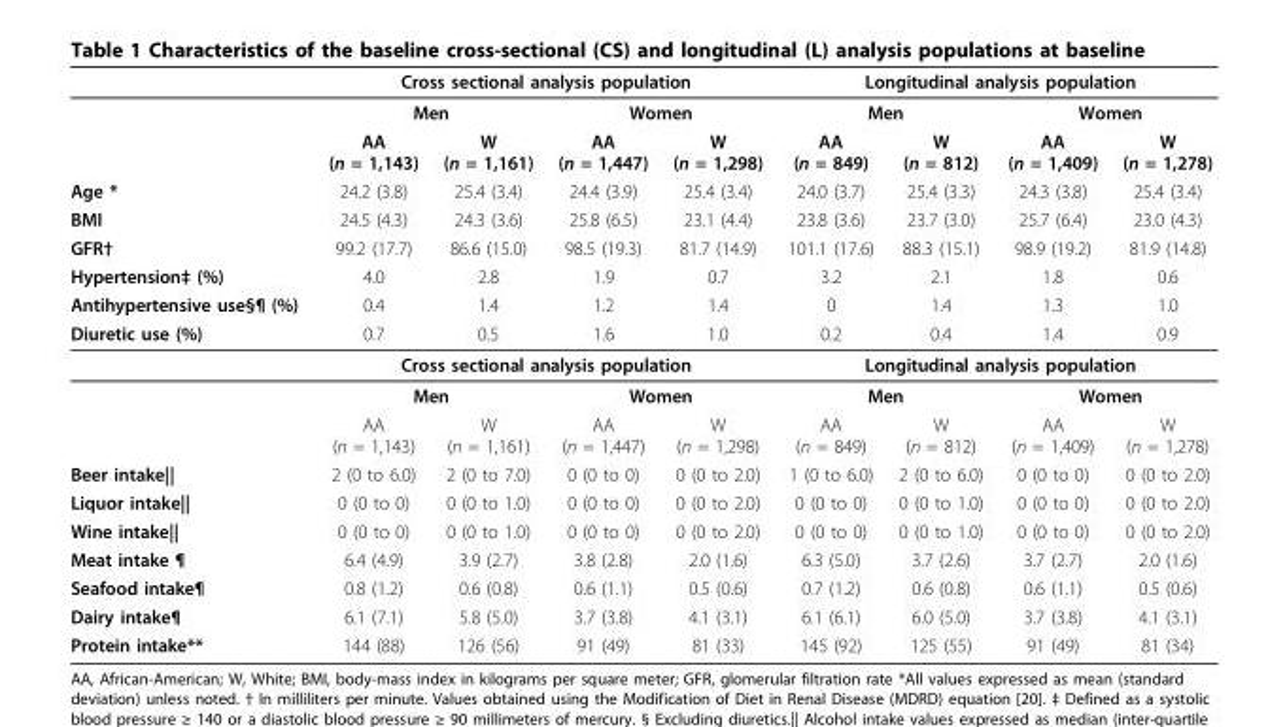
<table><thead><tr><td rowspan="3"></td><td colspan="4">Cross sectional analysis population</td><td colspan="4">Longitudinal analysis population</td></tr><tr><td colspan="2">Men</td><td colspan="2">Women</td><td colspan="2">Men</td><td colspan="2">Women</td></tr><tr><td>AA (n = 1,143)</td><td>W (n = 1,161)</td><td>AA (n = 1,447)</td><td>W (n = 1,298)</td><td>AA (n = 849)</td><td>W (n = 812)</td><td>AA (n = 1,409)</td><td>W (n = 1,278)</td></tr></thead><tbody><tr><td>Age *</td><td>24.2 (3.8)</td><td>25.4 (3.4)</td><td>24.4 (3.9)</td><td>25.4 (3.4)</td><td>24.0 (3.7)</td><td>25.4 (3.3)</td><td>24.3 (3.8)</td><td>25.4 (3.4)</td></tr><tr><td>BMI</td><td>24.5 (4.3)</td><td>24.3 (3.6)</td><td>25.8 (6.5)</td><td>23.1 (4.4)</td><td>23.8 (3.6)</td><td>23.7 (3.0)</td><td>25.7 (6.4)</td><td>23.0 (4.3)</td></tr><tr><td>GFR†</td><td>99.2 (17.7)</td><td>86.6 (15.0)</td><td>98.5 (19.3)</td><td>81.7 (14.9)</td><td>101.1 (17.6)</td><td>88.3 (15.1)</td><td>98.9 (19.2)</td><td>81.9 (14.8)</td></tr><tr><td>Hypertension‡ (%)</td><td>4.0</td><td>2.8</td><td>1.9</td><td>0.7</td><td>3.2</td><td>2.1</td><td>1.8</td><td>0.6</td></tr><tr><td>Antihypertensive use§¶ (%)</td><td>0.4</td><td>1.4</td><td>1.2</td><td>1.4</td><td>0</td><td>1.4</td><td>1.3</td><td>1.0</td></tr><tr><td rowspan="4">Diuretic use (%)</td><td>0.7</td><td>0.5</td><td>1.6</td><td>1.0</td><td>0.2</td><td>0.4</td><td>1.4</td><td>0.9</td></tr><tr><td colspan="4">Cross sectional analysis population</td><td colspan="4">Longitudinal analysis population</td></tr><tr><td colspan="2">Men</td><td colspan="2">Women</td><td colspan="2">Men</td><td colspan="2">Women</td></tr><tr><td>AA (n = 1,143)</td><td>W (n = 1,161)</td><td>AA (n = 1,447)</td><td>W (n = 1,298)</td><td>AA (n = 849)</td><td>W (n = 812)</td><td>AA (n = 1,409)</td><td>W (n = 1,278)</td></tr><tr><td>Beer intake||</td><td>2 (0 to 6.0)</td><td>2 (0 to 7.0)</td><td>0 (0 to 0)</td><td>0 (0 to 2.0)</td><td>1 (0 to 6.0)</td><td>2 (0 to 6.0)</td><td>0 (0 to 0)</td><td>0 (0 to 2.0)</td></tr><tr><td>Liquor intake||</td><td>0 (0 to 0)</td><td>0 (0 to 1.0)</td><td>0 (0 to 0)</td><td>0 (0 to 2.0)</td><td>0 (0 to 0)</td><td>0 (0 to 1.0)</td><td>0 (0 to 0)</td><td>0 (0 to 2.0)</td></tr><tr><td>Wine intake||</td><td>0 (0 to 0)</td><td>0 (0 to 1.0)</td><td>0 (0 to 0)</td><td>0 (0 to 2.0)</td><td>0 (0 to 0)</td><td>0 (0 to 1.0)</td><td>0 (0 to 0)</td><td>0 (0 to 2.0)</td></tr><tr><td>Meat intake ¶</td><td>6.4 (4.9)</td><td>3.9 (2.7)</td><td>3.8 (2.8)</td><td>2.0 (1.6)</td><td>6.3 (5.0)</td><td>3.7 (2.6)</td><td>3.7 (2.7)</td><td>2.0 (1.6)</td></tr><tr><td>Seafood intake¶</td><td>0.8 (1.2)</td><td>0.6 (0.8)</td><td>0.6 (1.1)</td><td>0.5 (0.6)</td><td>0.7 (1.2)</td><td>0.6 (0.8)</td><td>0.6 (1.1)</td><td>0.5 (0.6)</td></tr><tr><td>Dairy intake¶</td><td>6.1 (7.1)</td><td>5.8 (5.0)</td><td>3.7 (3.8)</td><td>4.1 (3.1)</td><td>6.1 (6.1)</td><td>6.0 (5.0)</td><td>3.7 (3.8)</td><td>4.1 (3.1)</td></tr><tr><td>Protein intake**</td><td>144 (88)</td><td>126 (56)</td><td>91 (49)</td><td>81 (33)</td><td>145 (92)</td><td>125 (55)</td><td>91 (49)</td><td>81 (34)</td></tr></tbody></table>